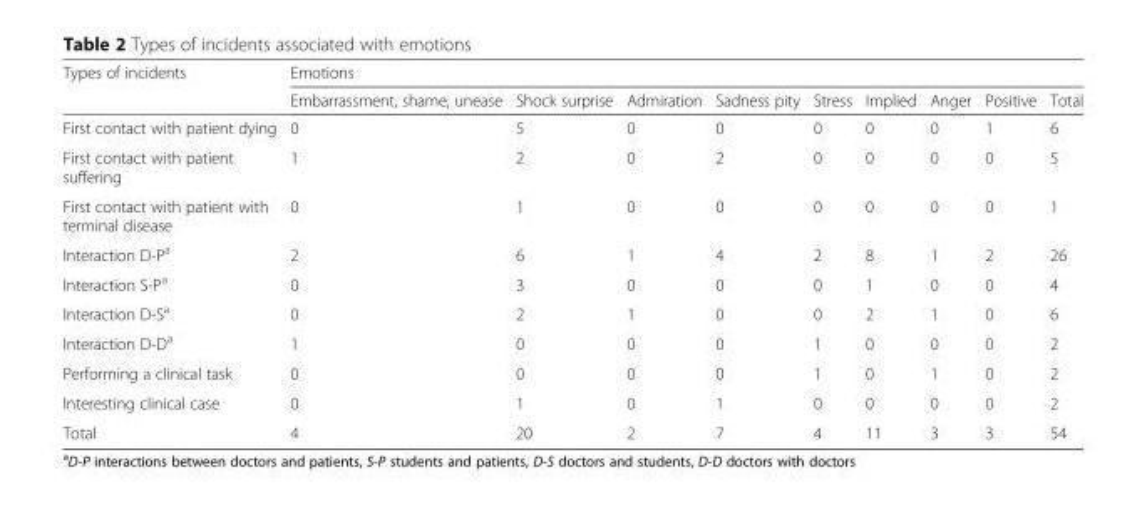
<table><thead><tr><td rowspan="2">Types of incidents</td><td colspan="9">Emotions</td></tr><tr><td>Embarrassment, shame, unease</td><td>Shock surprise</td><td>Admiration</td><td>Sadness pity</td><td>Stress</td><td>Implied</td><td>Anger</td><td>Positive</td><td>Total</td></tr></thead><tbody><tr><td>First contact with patient dying</td><td>0</td><td>5</td><td>0</td><td>0</td><td>0</td><td>0</td><td>0</td><td>1</td><td>6</td></tr><tr><td>First contact with patient suffering</td><td>1</td><td>2</td><td>0</td><td>2</td><td>0</td><td>0</td><td>0</td><td>0</td><td>5</td></tr><tr><td>First contact with patient with terminal disease</td><td>0</td><td>1</td><td>0</td><td>0</td><td>0</td><td>0</td><td>0</td><td>0</td><td>1</td></tr><tr><td>Interaction D-P<sup>a</sup></td><td>2</td><td>6</td><td>1</td><td>4</td><td>2</td><td>8</td><td>1</td><td>2</td><td>26</td></tr><tr><td>Interaction S-P<sup>a</sup></td><td>0</td><td>3</td><td>0</td><td>0</td><td>0</td><td>1</td><td>0</td><td>0</td><td>4</td></tr><tr><td>Interaction D-S<sup>a</sup></td><td>0</td><td>2</td><td>1</td><td>0</td><td>0</td><td>2</td><td>1</td><td>0</td><td>6</td></tr><tr><td>Interaction D-D<sup>a</sup></td><td>1</td><td>0</td><td>0</td><td>0</td><td>1</td><td>0</td><td>0</td><td>0</td><td>2</td></tr><tr><td>Performing a clinical task</td><td>0</td><td>0</td><td>0</td><td>0</td><td>1</td><td>0</td><td>1</td><td>0</td><td>2</td></tr><tr><td>Interesting clinical case</td><td>0</td><td>1</td><td>0</td><td>1</td><td>0</td><td>0</td><td>0</td><td>0</td><td>2</td></tr><tr><td>Total</td><td>4</td><td>20</td><td>2</td><td>7</td><td>4</td><td>11</td><td>3</td><td>3</td><td>54</td></tr></tbody></table>